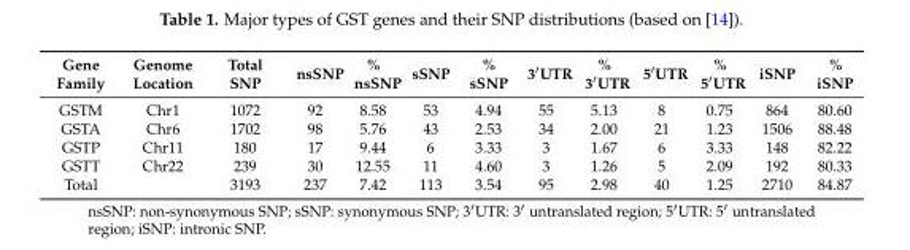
<table><thead><tr><td>Gene Family</td><td>Genome Location</td><td>Total SNP</td><td>nsSNP</td><td>% nsSNP</td><td>sSNP</td><td>% sSNP</td><td>3′UTR</td><td>% 3′UTR</td><td>5′UTR</td><td>% 5′UTR</td><td>iSNP</td><td>% iSNP</td></tr></thead><tbody><tr><td>GSTM</td><td>Chr1</td><td>1072</td><td>92</td><td>8.58</td><td>53</td><td>4.94</td><td>55</td><td>5.13</td><td>8</td><td>0.75</td><td>864</td><td>80.60</td></tr><tr><td>GSTA</td><td>Chr6</td><td>1702</td><td>98</td><td>5.76</td><td>43</td><td>2.53</td><td>34</td><td>2.00</td><td>21</td><td>1.23</td><td>1506</td><td>88.48</td></tr><tr><td>GSTP</td><td>Chr11</td><td>180</td><td>17</td><td>9.44</td><td>6</td><td>3.33</td><td>3</td><td>1.67</td><td>6</td><td>3.33</td><td>148</td><td>82.22</td></tr><tr><td>GSTT</td><td>Chr22</td><td>239</td><td>30</td><td>12.55</td><td>11</td><td>4.60</td><td>3</td><td>1.26</td><td>5</td><td>2.09</td><td>192</td><td>80.33</td></tr><tr><td>Total</td><td></td><td>3193</td><td>237</td><td>7.42</td><td>113</td><td>3.54</td><td>95</td><td>2.98</td><td>40</td><td>1.25</td><td>2710</td><td>84.87</td></tr></tbody></table>